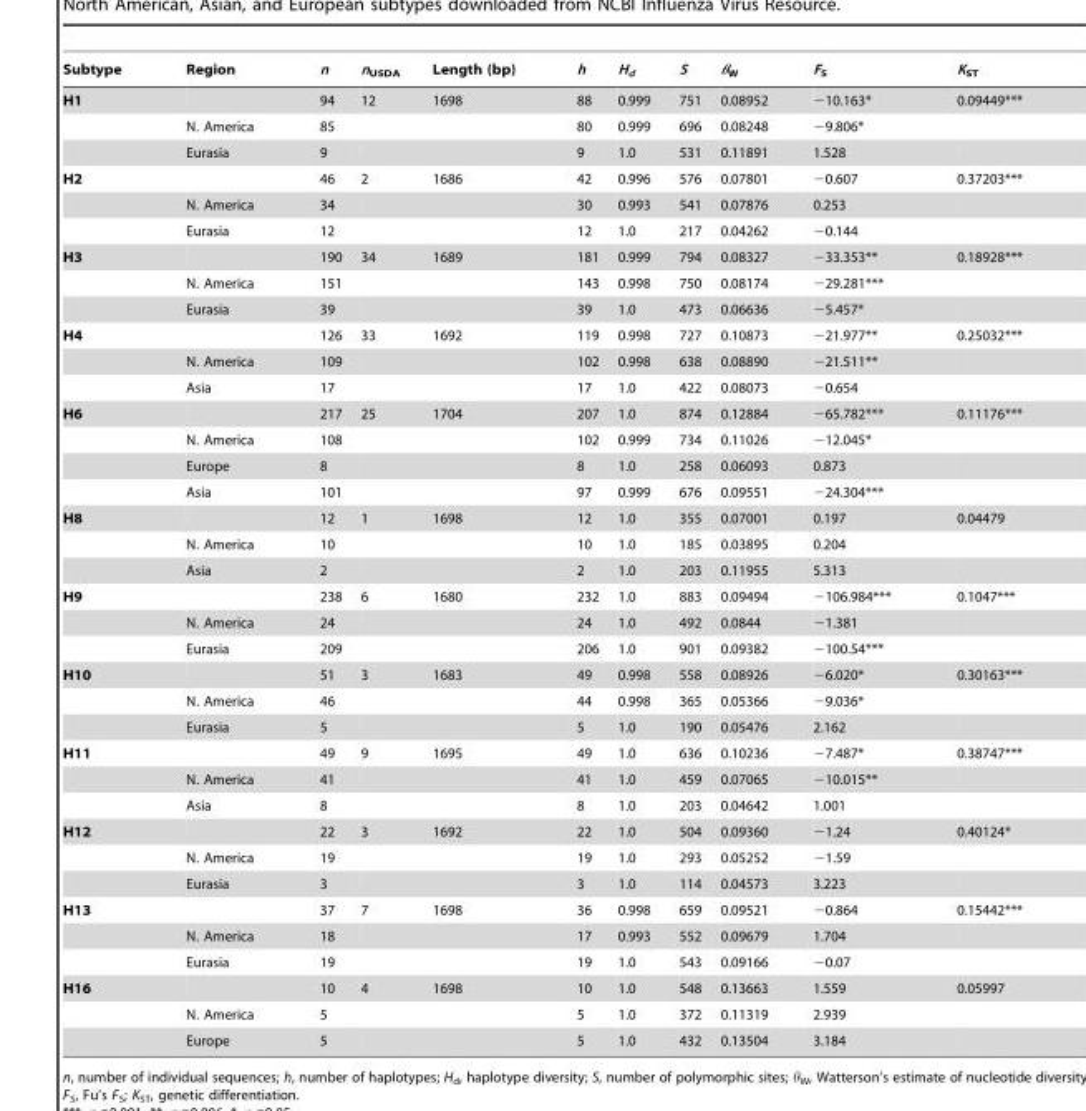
<table><thead><tr><td>Subtype</td><td>Region</td><td>n</td><td>n<sub>USDA</sub></td><td>Length (bp)</td><td>h</td><td>H<sub>d</sub></td><td>S</td><td>θ<sub>W</sub></td><td>F<sub>S</sub></td><td>K<sub>ST</sub></td></tr></thead><tbody><tr><td rowspan="3">H1</td><td></td><td>94</td><td>12</td><td>1698</td><td>88</td><td>0.999</td><td>751</td><td>0.08952</td><td>−10.163*</td><td>0.09449***</td></tr><tr><td>N. America</td><td>85</td><td></td><td></td><td>80</td><td>0.999</td><td>696</td><td>0.08248</td><td>−9.806*</td><td></td></tr><tr><td>Eurasia</td><td>9</td><td></td><td></td><td>9</td><td>1.0</td><td>531</td><td>0.11891</td><td>1.528</td><td></td></tr><tr><td rowspan="3">H2</td><td></td><td>46</td><td>2</td><td>1686</td><td>42</td><td>0.996</td><td>576</td><td>0.07801</td><td>−0.607</td><td>0.37203***</td></tr><tr><td>N. America</td><td>34</td><td></td><td></td><td>30</td><td>0.993</td><td>541</td><td>0.07876</td><td>0.253</td><td></td></tr><tr><td>Eurasia</td><td>12</td><td></td><td></td><td>12</td><td>1.0</td><td>217</td><td>0.04262</td><td>−0.144</td><td></td></tr><tr><td rowspan="3">H3</td><td></td><td>190</td><td>34</td><td>1689</td><td>181</td><td>0.999</td><td>794</td><td>0.08327</td><td>−33.353**</td><td>0.18928***</td></tr><tr><td>N. America</td><td>151</td><td></td><td></td><td>143</td><td>0.998</td><td>750</td><td>0.08174</td><td>−29.281***</td><td></td></tr><tr><td>Eurasia</td><td>39</td><td></td><td></td><td>39</td><td>1.0</td><td>473</td><td>0.06636</td><td>−5.457*</td><td></td></tr><tr><td rowspan="3">H4</td><td></td><td>126</td><td>33</td><td>1692</td><td>119</td><td>0.998</td><td>727</td><td>0.10873</td><td>−21.977**</td><td>0.25032***</td></tr><tr><td>N. America</td><td>109</td><td></td><td></td><td>102</td><td>0.998</td><td>638</td><td>0.08890</td><td>−21.511**</td><td></td></tr><tr><td>Asia</td><td>17</td><td></td><td></td><td>17</td><td>1.0</td><td>422</td><td>0.08073</td><td>−0.654</td><td></td></tr><tr><td rowspan="4">H6</td><td></td><td>217</td><td>25</td><td>1704</td><td>207</td><td>1.0</td><td>874</td><td>0.12884</td><td>−65.782***</td><td>0.11176***</td></tr><tr><td>N. America</td><td>108</td><td></td><td></td><td>102</td><td>0.999</td><td>734</td><td>0.11026</td><td>−12.045*</td><td></td></tr><tr><td>Europe</td><td>8</td><td></td><td></td><td>8</td><td>1.0</td><td>258</td><td>0.06093</td><td>0.873</td><td></td></tr><tr><td>Asia</td><td>101</td><td></td><td></td><td>97</td><td>0.999</td><td>676</td><td>0.09551</td><td>−24.304***</td><td></td></tr><tr><td rowspan="3">H8</td><td></td><td>12</td><td>1</td><td>1698</td><td>12</td><td>1.0</td><td>355</td><td>0.07001</td><td>0.197</td><td>0.04479</td></tr><tr><td>N. America</td><td>10</td><td></td><td></td><td>10</td><td>1.0</td><td>185</td><td>0.03895</td><td>0.204</td><td></td></tr><tr><td>Asia</td><td>2</td><td></td><td></td><td>2</td><td>1.0</td><td>203</td><td>0.11955</td><td>5.313</td><td></td></tr><tr><td rowspan="3">H9</td><td></td><td>238</td><td>6</td><td>1680</td><td>232</td><td>1.0</td><td>883</td><td>0.09494</td><td>−106.984***</td><td>0.1047***</td></tr><tr><td>N. America</td><td>24</td><td></td><td></td><td>24</td><td>1.0</td><td>492</td><td>0.0844</td><td>−1.381</td><td></td></tr><tr><td>Eurasia</td><td>209</td><td></td><td></td><td>206</td><td>1.0</td><td>901</td><td>0.09382</td><td>−100.54***</td><td></td></tr><tr><td rowspan="3">H10</td><td></td><td>51</td><td>3</td><td>1683</td><td>49</td><td>0.998</td><td>558</td><td>0.08926</td><td>−6.020*</td><td>0.30163***</td></tr><tr><td>N. America</td><td>46</td><td></td><td></td><td>44</td><td>0.998</td><td>365</td><td>0.05366</td><td>−9.036*</td><td></td></tr><tr><td>Eurasia</td><td>5</td><td></td><td></td><td>5</td><td>1.0</td><td>190</td><td>0.05476</td><td>2.162</td><td></td></tr><tr><td rowspan="3">H11</td><td></td><td>49</td><td>9</td><td>1695</td><td>49</td><td>1.0</td><td>636</td><td>0.10236</td><td>−7.487*</td><td>0.38747***</td></tr><tr><td>N. America</td><td>41</td><td></td><td></td><td>41</td><td>1.0</td><td>459</td><td>0.07065</td><td>−10.015**</td><td></td></tr><tr><td>Asia</td><td>8</td><td></td><td></td><td>8</td><td>1.0</td><td>203</td><td>0.04642</td><td>1.001</td><td></td></tr><tr><td rowspan="3">H12</td><td></td><td>22</td><td>3</td><td>1692</td><td>22</td><td>1.0</td><td>504</td><td>0.09360</td><td>−1.24</td><td>0.40124*</td></tr><tr><td>N. America</td><td>19</td><td></td><td></td><td>19</td><td>1.0</td><td>293</td><td>0.05252</td><td>−1.59</td><td></td></tr><tr><td>Eurasia</td><td>3</td><td></td><td></td><td>3</td><td>1.0</td><td>114</td><td>0.04573</td><td>3.223</td><td></td></tr><tr><td rowspan="3">H13</td><td></td><td>37</td><td>7</td><td>1698</td><td>36</td><td>0.998</td><td>659</td><td>0.09521</td><td>−0.864</td><td>0.15442***</td></tr><tr><td>N. America</td><td>18</td><td></td><td></td><td>17</td><td>0.993</td><td>552</td><td>0.09679</td><td>1.704</td><td></td></tr><tr><td>Eurasia</td><td>19</td><td></td><td></td><td>19</td><td>1.0</td><td>543</td><td>0.09166</td><td>−0.07</td><td></td></tr><tr><td rowspan="3">H16</td><td></td><td>10</td><td>4</td><td>1698</td><td>10</td><td>1.0</td><td>548</td><td>0.13663</td><td>1.559</td><td>0.05997</td></tr><tr><td>N. America</td><td>5</td><td></td><td></td><td>5</td><td>1.0</td><td>372</td><td>0.11319</td><td>2.939</td><td></td></tr><tr><td>Europe</td><td>5</td><td></td><td></td><td>5</td><td>1.0</td><td>432</td><td>0.13504</td><td>3.184</td><td></td></tr></tbody></table>